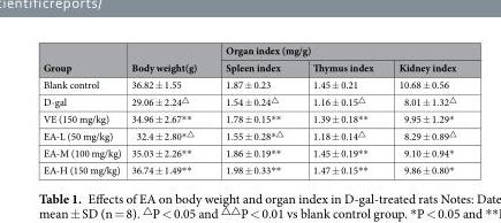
<table><thead><tr><td rowspan="2">Group</td><td rowspan="2">Body weight(g)</td><td colspan="3">Organ index (mg/g)</td></tr><tr><td>Spleen index</td><td>Thymus index</td><td>Kidney index</td></tr></thead><tbody><tr><td>Blank control</td><td>36.82 ± 1.55</td><td>1.87 ± 0.23</td><td>1.45 ± 0.21</td><td>10.68 ± 0.56</td></tr><tr><td>D-gal</td><td>29.06 ± 2.24<sup>△</sup></td><td>1.54 ± 0.24<sup>△</sup></td><td>1.16 ± 0.15<sup>△</sup></td><td>8.01 ± 1.32<sup>△</sup></td></tr><tr><td>VE (150 mg/kg)</td><td>34.96 ± 2.67**</td><td>1.78 ± 0.15**</td><td>1.39 ± 0.18**</td><td>9.95 ± 1.29*</td></tr><tr><td>EA-L (50 mg/kg)</td><td>32.4 ± 2.80*<sup>△</sup></td><td>1.55 ± 0.28*<sup>△</sup></td><td>1.18 ± 0.14<sup>△</sup></td><td>8.29 ± 0.89<sup>△</sup></td></tr><tr><td>EA-M (100 mg/kg)</td><td>35.03 ± 2.26**</td><td>1.86 ± 0.19**</td><td>1.45 ± 0.19**</td><td>9.10 ± 0.94*</td></tr><tr><td>EA-H (150 mg/kg)</td><td>36.74 ± 1.49**</td><td>1.98 ± 0.33**</td><td>1.47 ± 0.15**</td><td>9.86 ± 0.80*</td></tr></tbody></table>